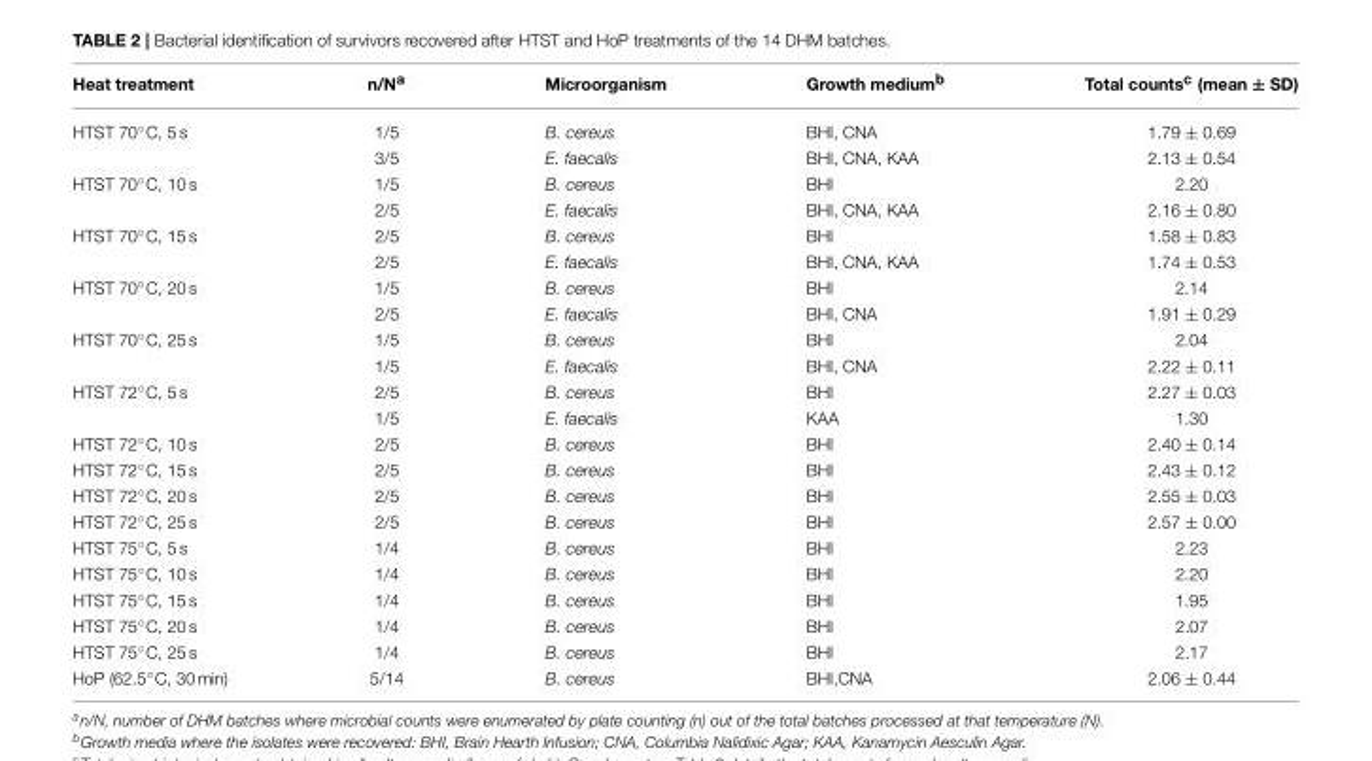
<table><thead><tr><td>Heat treatment</td><td>n/N<sup>a</sup></td><td>Microorganism</td><td>Growth medium<sup>b</sup></td><td>Total counts<sup>c</sup> (mean ± SD)</td></tr></thead><tbody><tr><td rowspan="2">HTST 70◦C, 5 s</td><td>1/5</td><td>B. cereus</td><td>BHI, CNA</td><td>1.79 ± 0.69</td></tr><tr><td>3/5</td><td>E. faecalis</td><td>BHI, CNA, KAA</td><td>2.13 ± 0.54</td></tr><tr><td rowspan="2">HTST 70◦C, 10 s</td><td>1/5</td><td>B. cereus</td><td>BHI</td><td>2.20</td></tr><tr><td>2/5</td><td>E. faecalis</td><td>BHI, CNA, KAA</td><td>2.16 ± 0.80</td></tr><tr><td rowspan="2">HTST 70◦C, 15 s</td><td>2/5</td><td>B. cereus</td><td>BHI</td><td>1.58 ± 0.83</td></tr><tr><td>2/5</td><td>E. faecalis</td><td>BHI, CNA, KAA</td><td>1.74 ± 0.53</td></tr><tr><td rowspan="2">HTST 70◦C, 20 s</td><td>1/5</td><td>B. cereus</td><td>BHI</td><td>2.14</td></tr><tr><td>2/5</td><td>E. faecalis</td><td>BHI, CNA</td><td>1.91 ± 0.29</td></tr><tr><td rowspan="2">HTST 70◦C, 25 s</td><td>1/5</td><td>B. cereus</td><td>BHI</td><td>2.04</td></tr><tr><td>1/5</td><td>E. faecalis</td><td>BHI, CNA</td><td>2.22 ± 0.11</td></tr><tr><td rowspan="2">HTST 72◦C, 5 s</td><td>2/5</td><td>B. cereus</td><td>BHI</td><td>2.27 ± 0.03</td></tr><tr><td>1/5</td><td>E. faecalis</td><td>KAA</td><td>1.30</td></tr><tr><td>HTST 72◦C, 10 s</td><td>2/5</td><td>B. cereus</td><td>BHI</td><td>2.40 ± 0.14</td></tr><tr><td>HTST 72◦C, 15 s</td><td>2/5</td><td>B. cereus</td><td>BHI</td><td>2.43 ± 0.12</td></tr><tr><td>HTST 72◦C, 20 s</td><td>2/5</td><td>B. cereus</td><td>BHI</td><td>2.55 ± 0.03</td></tr><tr><td>HTST 72◦C, 25 s</td><td>2/5</td><td>B. cereus</td><td>BHI</td><td>2.57 ± 0.00</td></tr><tr><td>HTST 75◦C, 5 s</td><td>1/4</td><td>B. cereus</td><td>BHI</td><td>2.23</td></tr><tr><td>HTST 75◦C, 10 s</td><td>1/4</td><td>B. cereus</td><td>BHI</td><td>2.20</td></tr><tr><td>HTST 75◦C, 15 s</td><td>1/4</td><td>B. cereus</td><td>BHI</td><td>1.95</td></tr><tr><td>HTST 75◦C, 20 s</td><td>1/4</td><td>B. cereus</td><td>BHI</td><td>2.07</td></tr><tr><td>HTST 75◦C, 25 s</td><td>1/4</td><td>B. cereus</td><td>BHI</td><td>2.17</td></tr><tr><td>HoP (62.5◦C, 30 min)</td><td>5/14</td><td>B. cereus</td><td>BHI,CNA</td><td>2.06 ± 0.44</td></tr></tbody></table>